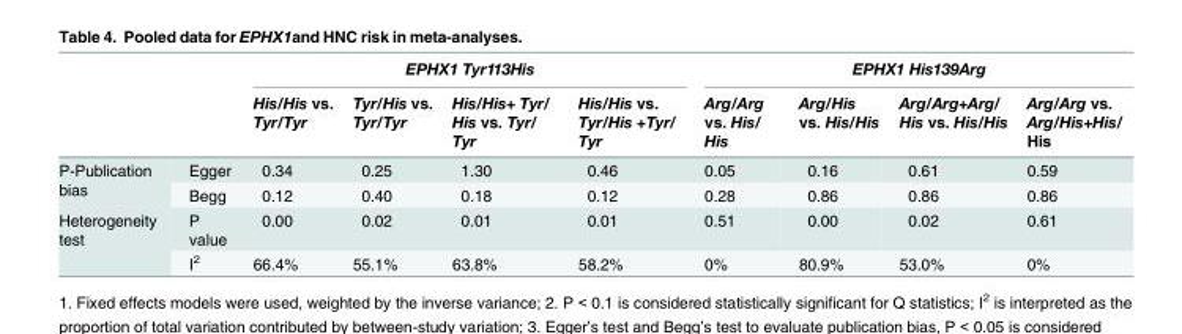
<table><thead><tr><td rowspan="2"></td><td rowspan="2"></td><td colspan="4">EPHX1 Tyr113His</td><td colspan="4">EPHX1 His139Arg</td></tr><tr><td>His/His vs. Tyr/Tyr</td><td>Tyr/His vs. Tyr/Tyr</td><td>His/His+ Tyr/ His vs. Tyr/ Tyr</td><td>His/His vs. Tyr/His +Tyr/ Tyr</td><td>Arg/Arg vs. His/ His</td><td>Arg/His vs. His/His</td><td>Arg/Arg+Arg/ His vs. His/His</td><td>Arg/Arg vs. Arg/His+His/ His</td></tr></thead><tbody><tr><td rowspan="2">P-Publication bias</td><td>Egger</td><td>0.34</td><td>0.25</td><td>1.30</td><td>0.46</td><td>0.05</td><td>0.16</td><td>0.61</td><td>0.59</td></tr><tr><td>Begg</td><td>0.12</td><td>0.40</td><td>0.18</td><td>0.12</td><td>0.28</td><td>0.86</td><td>0.86</td><td>0.86</td></tr><tr><td rowspan="2">Heterogeneity test</td><td>P value</td><td>0.00</td><td>0.02</td><td>0.01</td><td>0.01</td><td>0.51</td><td>0.00</td><td>0.02</td><td>0.61</td></tr><tr><td>I<sup>2</sup></td><td>66.4%</td><td>55.1%</td><td>63.8%</td><td>58.2%</td><td>0%</td><td>80.9%</td><td>53.0%</td><td>0%</td></tr></tbody></table>